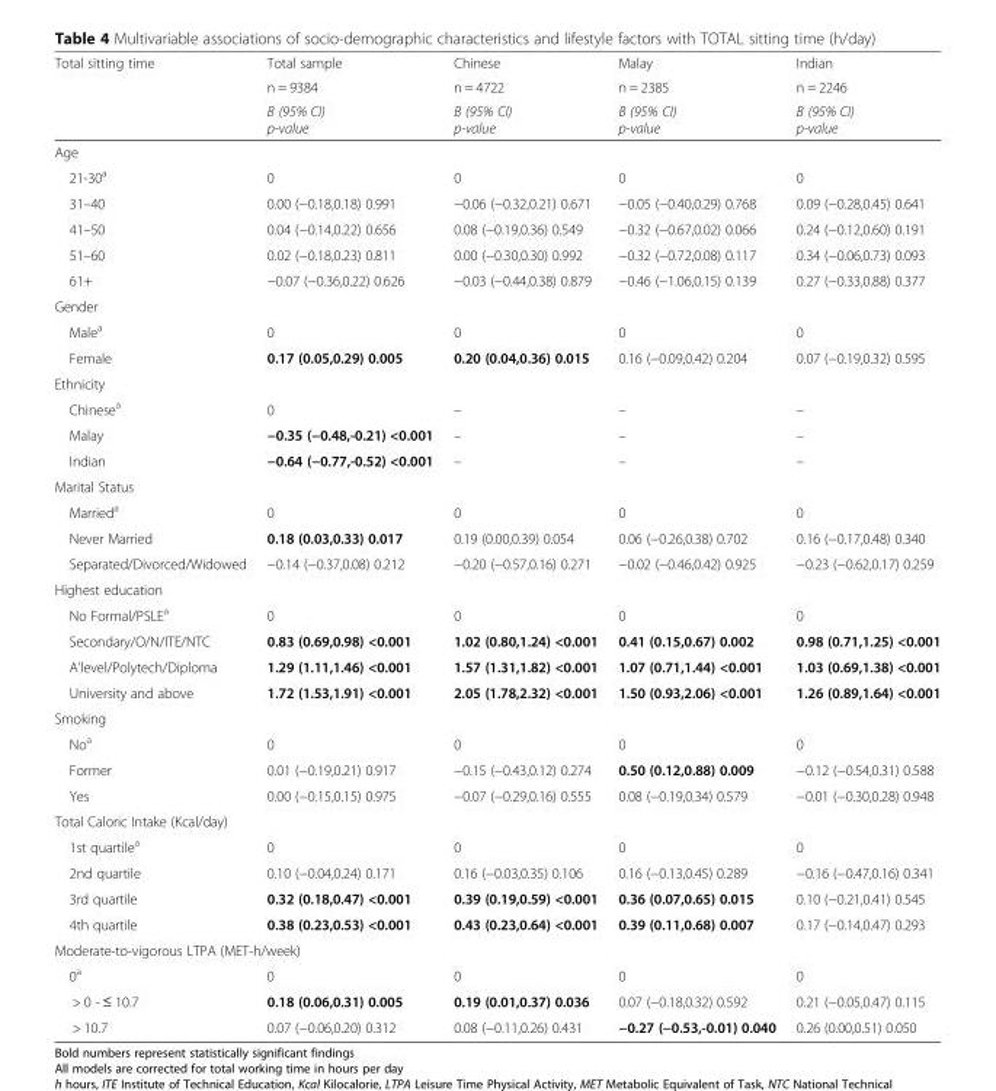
<table><thead><tr><td rowspan="3">Total sitting time</td><td rowspan="3">Total sample n = 9384 B (95% CI) p-value</td><td rowspan="3">Chinese n = 4722 B (95% CI) p-value</td><td rowspan="3">Malay n = 2385 B (95% CI) p-value</td><td rowspan="3">Indian n = 2246 B (95% CI) p-value</td></tr><tr></tr><tr></tr></thead><tbody><tr><td colspan="5">Age</td></tr><tr><td>21-30<sup>a</sup></td><td>0</td><td>0</td><td>0</td><td>0</td></tr><tr><td>31–40</td><td>0.00 (−0.18,0.18) 0.991</td><td>−0.06 (−0.32,0.21) 0.671</td><td>−0.05 (−0.40,0.29) 0.768</td><td>0.09 (−0.28,0.45) 0.641</td></tr><tr><td>41–50</td><td>0.04 (−0.14,0.22) 0.656</td><td>0.08 (−0.19,0.36) 0.549</td><td>−0.32 (−0.67,0.02) 0.066</td><td>0.24 (−0.12,0.60) 0.191</td></tr><tr><td>51–60</td><td>0.02 (−0.18,0.23) 0.811</td><td>0.00 (−0.30,0.30) 0.992</td><td>−0.32 (−0.72,0.08) 0.117</td><td>0.34 (−0.06,0.73) 0.093</td></tr><tr><td>61+</td><td>−0.07 (−0.36,0.22) 0.626</td><td>−0.03 (−0.44,0.38) 0.879</td><td>−0.46 (−1.06,0.15) 0.139</td><td>0.27 (−0.33,0.88) 0.377</td></tr><tr><td colspan="5">Gender</td></tr><tr><td>Male<sup>a</sup></td><td>0</td><td>0</td><td>0</td><td>0</td></tr><tr><td>Female</td><td>0.17 (0.05,0.29) 0.005</td><td>0.20 (0.04,0.36) 0.015</td><td>0.16 (−0.09,0.42) 0.204</td><td>0.07 (−0.19,0.32) 0.595</td></tr><tr><td colspan="5">Ethnicity</td></tr><tr><td>Chinese<sup>a</sup></td><td>0</td><td>–</td><td>–</td><td>–</td></tr><tr><td>Malay</td><td>−0.35 (−0.48,-0.21) &lt;0.001</td><td>–</td><td>–</td><td>–</td></tr><tr><td>Indian</td><td>−0.64 (−0.77,-0.52) &lt;0.001</td><td>–</td><td>–</td><td>–</td></tr><tr><td colspan="5">Marital Status</td></tr><tr><td>Married<sup>a</sup></td><td>0</td><td>0</td><td>0</td><td>0</td></tr><tr><td>Never Married</td><td>0.18 (0.03,0.33) 0.017</td><td>0.19 (0.00,0.39) 0.054</td><td>0.06 (−0.26,0.38) 0.702</td><td>0.16 (−0.17,0.48) 0.340</td></tr><tr><td>Separated/Divorced/Widowed</td><td>−0.14 (−0.37,0.08) 0.212</td><td>−0.20 (−0.57,0.16) 0.271</td><td>−0.02 (−0.46,0.42) 0.925</td><td>−0.23 (−0.62,0.17) 0.259</td></tr><tr><td colspan="5">Highest education</td></tr><tr><td>No Formal/PSLE<sup>a</sup></td><td>0</td><td>0</td><td>0</td><td>0</td></tr><tr><td>Secondary/O/N/ITE/NTC</td><td>0.83 (0.69,0.98) &lt;0.001</td><td>1.02 (0.80,1.24) &lt;0.001</td><td>0.41 (0.15,0.67) 0.002</td><td>0.98 (0.71,1.25) &lt;0.001</td></tr><tr><td>A’level/Polytech/Diploma</td><td>1.29 (1.11,1.46) &lt;0.001</td><td>1.57 (1.31,1.82) &lt;0.001</td><td>1.07 (0.71,1.44) &lt;0.001</td><td>1.03 (0.69,1.38) &lt;0.001</td></tr><tr><td>University and above</td><td>1.72 (1.53,1.91) &lt;0.001</td><td>2.05 (1.78,2.32) &lt;0.001</td><td>1.50 (0.93,2.06) &lt;0.001</td><td>1.26 (0.89,1.64) &lt;0.001</td></tr><tr><td colspan="5">Smoking</td></tr><tr><td>No<sup>a</sup></td><td>0</td><td>0</td><td>0</td><td>0</td></tr><tr><td>Former</td><td>0.01 (−0.19,0.21) 0.917</td><td>−0.15 (−0.43,0.12) 0.274</td><td>0.50 (0.12,0.88) 0.009</td><td>−0.12 (−0.54,0.31) 0.588</td></tr><tr><td>Yes</td><td>0.00 (−0.15,0.15) 0.975</td><td>−0.07 (−0.29,0.16) 0.555</td><td>0.08 (−0.19,0.34) 0.579</td><td>−0.01 (−0.30,0.28) 0.948</td></tr><tr><td colspan="5">Total Caloric Intake (Kcal/day)</td></tr><tr><td>1st quartile<sup>a</sup></td><td>0</td><td>0</td><td>0</td><td>0</td></tr><tr><td>2nd quartile</td><td>0.10 (−0.04,0.24) 0.171</td><td>0.16 (−0.03,0.35) 0.106</td><td>0.16 (−0.13,0.45) 0.289</td><td>−0.16 (−0.47,0.16) 0.341</td></tr><tr><td>3rd quartile</td><td>0.32 (0.18,0.47) &lt;0.001</td><td>0.39 (0.19,0.59) &lt;0.001</td><td>0.36 (0.07,0.65) 0.015</td><td>0.10 (−0.21,0.41) 0.545</td></tr><tr><td>4th quartile</td><td>0.38 (0.23,0.53) &lt;0.001</td><td>0.43 (0.23,0.64) &lt;0.001</td><td>0.39 (0.11,0.68) 0.007</td><td>0.17 (−0.14,0.47) 0.293</td></tr><tr><td colspan="5">Moderate-to-vigorous LTPA (MET-h/week)</td></tr><tr><td>0<sup>a</sup></td><td>0</td><td>0</td><td>0</td><td>0</td></tr><tr><td>&gt; 0 - ≤ 10.7</td><td>0.18 (0.06,0.31) 0.005</td><td>0.19 (0.01,0.37) 0.036</td><td>0.07 (−0.18,0.32) 0.592</td><td>0.21 (−0.05,0.47) 0.115</td></tr><tr><td>&gt; 10.7</td><td>0.07 (−0.06,0.20) 0.312</td><td>0.08 (−0.11,0.26) 0.431</td><td>−0.27 (−0.53,-0.01) 0.040</td><td>0.26 (0.00,0.51) 0.050</td></tr></tbody></table>